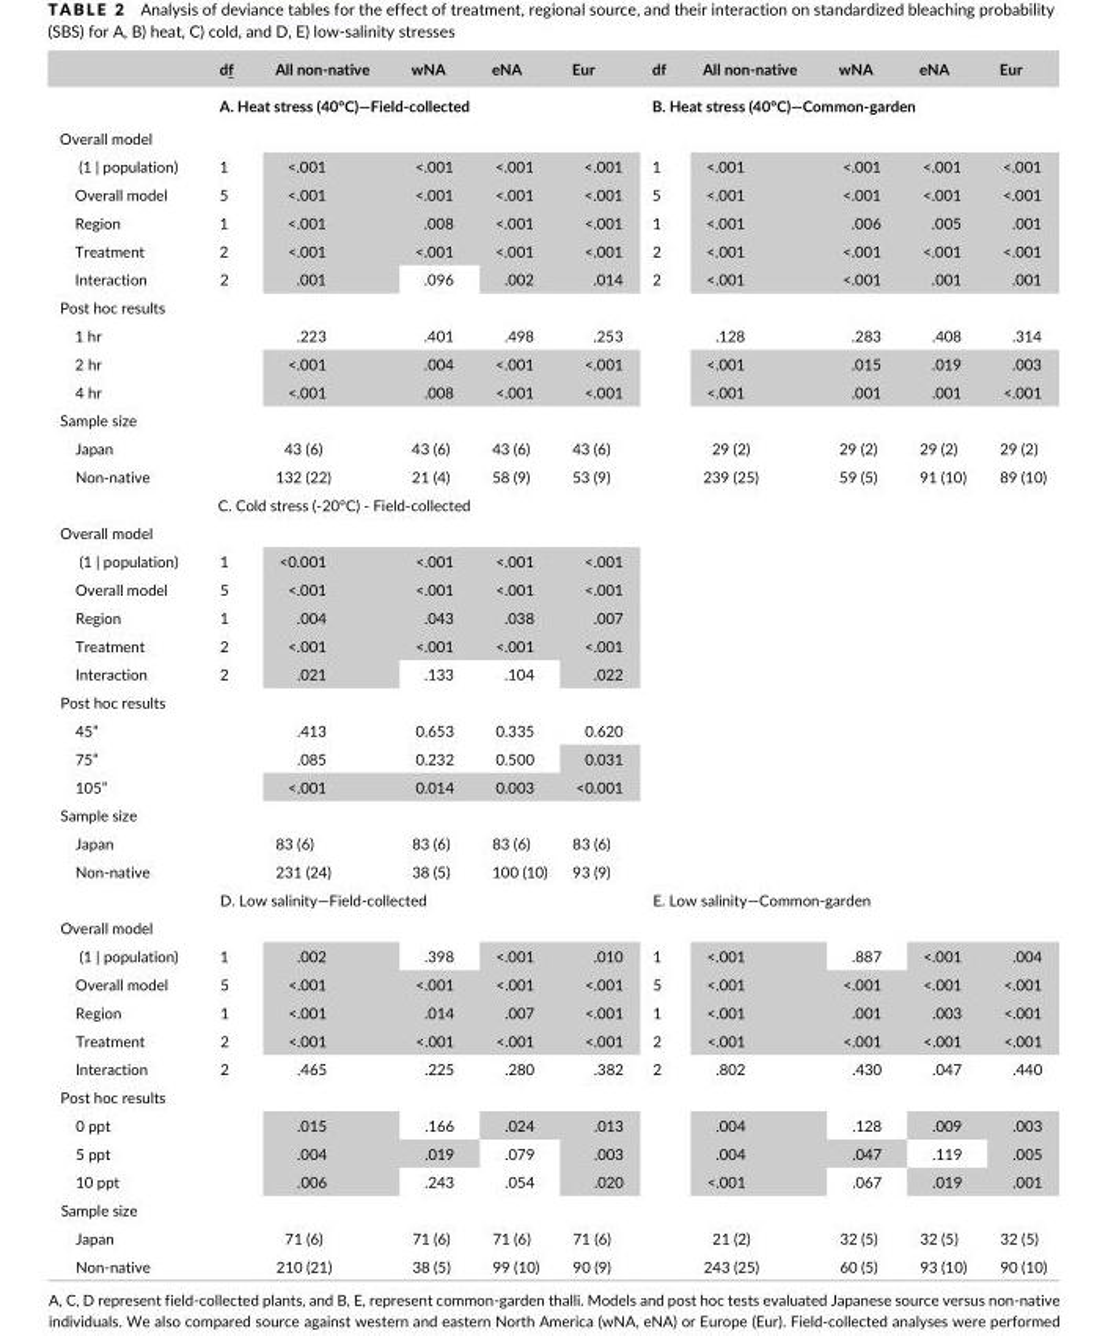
<table><thead><tr><td></td><td>df</td><td>All non-native</td><td>wNA</td><td>eNA</td><td>Eur</td><td>df</td><td>All non-native</td><td>wNA</td><td>eNA</td><td>Eur</td></tr></thead><tbody><tr><td></td><td colspan="5">A. Heat stress (40°C)—Field- collected</td><td colspan="5">B. Heat stress (40°C)—Common- garden</td></tr><tr><td colspan="11">Overall model</td></tr><tr><td>(1 | population)</td><td>1</td><td>&lt;.001</td><td>&lt;.001</td><td>&lt;.001</td><td>&lt;.001</td><td>1</td><td>&lt;.001</td><td>&lt;.001</td><td>&lt;.001</td><td>&lt;.001</td></tr><tr><td>Overall model</td><td>5</td><td>&lt;.001</td><td>&lt;.001</td><td>&lt;.001</td><td>&lt;.001</td><td>5</td><td>&lt;.001</td><td>&lt;.001</td><td>&lt;.001</td><td>&lt;.001</td></tr><tr><td>Region</td><td>1</td><td>&lt;.001</td><td>.008</td><td>&lt;.001</td><td>&lt;.001</td><td>1</td><td>&lt;.001</td><td>.006</td><td>.005</td><td>.001</td></tr><tr><td>Treatment</td><td>2</td><td>&lt;.001</td><td>&lt;.001</td><td>&lt;.001</td><td>&lt;.001</td><td>2</td><td>&lt;.001</td><td>&lt;.001</td><td>&lt;.001</td><td>&lt;.001</td></tr><tr><td>Interaction</td><td>2</td><td>.001</td><td>.096</td><td>.002</td><td>.014</td><td>2</td><td>&lt;.001</td><td>&lt;.001</td><td>.001</td><td>.001</td></tr><tr><td colspan="11">Post hoc results</td></tr><tr><td>1 hr</td><td></td><td>.223</td><td>.401</td><td>.498</td><td>.253</td><td></td><td>.128</td><td>.283</td><td>.408</td><td>.314</td></tr><tr><td>2 hr</td><td></td><td>&lt;.001</td><td>.004</td><td>&lt;.001</td><td>&lt;.001</td><td></td><td>&lt;.001</td><td>.015</td><td>.019</td><td>.003</td></tr><tr><td>4 hr</td><td></td><td>&lt;.001</td><td>.008</td><td>&lt;.001</td><td>&lt;.001</td><td></td><td>&lt;.001</td><td>.001</td><td>.001</td><td>&lt;.001</td></tr><tr><td colspan="11">Sample size</td></tr><tr><td>Japan</td><td></td><td>43 (6)</td><td>43 (6)</td><td>43 (6)</td><td>43 (6)</td><td></td><td>29 (2)</td><td>29 (2)</td><td>29 (2)</td><td>29 (2)</td></tr><tr><td rowspan="2">Non- native</td><td></td><td>132 (22)</td><td>21 (4)</td><td>58 (9)</td><td>53 (9)</td><td></td><td>239 (25)</td><td>59 (5)</td><td>91 (10)</td><td>89 (10)</td></tr><tr><td colspan="5">C. Cold stress (- 20°C) - Field- collected</td><td></td><td></td><td></td><td></td><td></td></tr><tr><td colspan="11">Overall model</td></tr><tr><td>(1 | population)</td><td>1</td><td>&lt;0.001</td><td>&lt;.001</td><td>&lt;.001</td><td>&lt;.001</td><td></td><td></td><td></td><td></td><td></td></tr><tr><td>Overall model</td><td>5</td><td>&lt;.001</td><td>&lt;.001</td><td>&lt;.001</td><td>&lt;.001</td><td></td><td></td><td></td><td></td><td></td></tr><tr><td>Region</td><td>1</td><td>.004</td><td>.043</td><td>.038</td><td>.007</td><td></td><td></td><td></td><td></td><td></td></tr><tr><td>Treatment</td><td>2</td><td>&lt;.001</td><td>&lt;.001</td><td>&lt;.001</td><td>&lt;.001</td><td></td><td></td><td></td><td></td><td></td></tr><tr><td>Interaction</td><td>2</td><td>.021</td><td>.133</td><td>.104</td><td>.022</td><td></td><td></td><td></td><td></td><td></td></tr><tr><td colspan="11">Post hoc results</td></tr><tr><td>45”</td><td></td><td>.413</td><td>0.653</td><td>0.335</td><td>0.620</td><td></td><td></td><td></td><td></td><td></td></tr><tr><td>75”</td><td></td><td>.085</td><td>0.232</td><td>0.500</td><td>0.031</td><td></td><td></td><td></td><td></td><td></td></tr><tr><td>105”</td><td></td><td>&lt;.001</td><td>0.014</td><td>0.003</td><td>&lt;0.001</td><td></td><td></td><td></td><td></td><td></td></tr><tr><td colspan="11">Sample size</td></tr><tr><td>Japan</td><td></td><td>83 (6)</td><td>83 (6)</td><td>83 (6)</td><td>83 (6)</td><td></td><td></td><td></td><td></td><td></td></tr><tr><td rowspan="2">Non- native</td><td></td><td>231 (24)</td><td>38 (5)</td><td>100 (10)</td><td>93 (9)</td><td></td><td></td><td></td><td></td><td></td></tr><tr><td colspan="5">D. Low salinity—Field- collected</td><td colspan="5">E. Low salinity—Common- garden</td></tr><tr><td colspan="11">Overall model</td></tr><tr><td>(1 | population)</td><td>1</td><td>.002</td><td>.398</td><td>&lt;.001</td><td>.010</td><td>1</td><td>&lt;.001</td><td>.887</td><td>&lt;.001</td><td>.004</td></tr><tr><td>Overall model</td><td>5</td><td>&lt;.001</td><td>&lt;.001</td><td>&lt;.001</td><td>&lt;.001</td><td>5</td><td>&lt;.001</td><td>&lt;.001</td><td>&lt;.001</td><td>&lt;.001</td></tr><tr><td>Region</td><td>1</td><td>&lt;.001</td><td>.014</td><td>.007</td><td>&lt;.001</td><td>1</td><td>&lt;.001</td><td>.001</td><td>.003</td><td>&lt;.001</td></tr><tr><td>Treatment</td><td>2</td><td>&lt;.001</td><td>&lt;.001</td><td>&lt;.001</td><td>&lt;.001</td><td>2</td><td>&lt;.001</td><td>&lt;.001</td><td>&lt;.001</td><td>&lt;.001</td></tr><tr><td>Interaction</td><td>2</td><td>.465</td><td>.225</td><td>.280</td><td>.382</td><td>2</td><td>.802</td><td>.430</td><td>.047</td><td>.440</td></tr><tr><td colspan="11">Post hoc results</td></tr><tr><td>0 ppt</td><td></td><td>.015</td><td>.166</td><td>.024</td><td>.013</td><td></td><td>.004</td><td>.128</td><td>.009</td><td>.003</td></tr><tr><td>5 ppt</td><td></td><td>.004</td><td>.019</td><td>.079</td><td>.003</td><td></td><td>.004</td><td>.047</td><td>.119</td><td>.005</td></tr><tr><td>10 ppt</td><td></td><td>.006</td><td>.243</td><td>.054</td><td>.020</td><td></td><td>&lt;.001</td><td>.067</td><td>.019</td><td>.001</td></tr><tr><td colspan="11">Sample size</td></tr><tr><td>Japan</td><td></td><td>71 (6)</td><td>71 (6)</td><td>71 (6)</td><td>71 (6)</td><td></td><td>21 (2)</td><td>32 (5)</td><td>32 (5)</td><td>32 (5)</td></tr><tr><td>Non- native</td><td></td><td>210 (21)</td><td>38 (5)</td><td>99 (10)</td><td>90 (9)</td><td></td><td>243 (25)</td><td>60 (5)</td><td>93 (10)</td><td>90 (10)</td></tr></tbody></table>